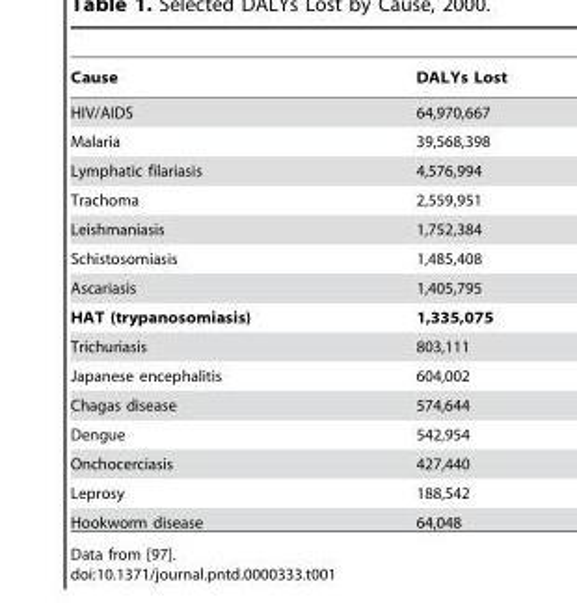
<table><thead><tr><td>Cause</td><td>DALYs Lost</td></tr></thead><tbody><tr><td>HIV/AIDS</td><td>64,970,667</td></tr><tr><td>Malaria</td><td>39,568,398</td></tr><tr><td>Lymphatic filariasis</td><td>4,576,994</td></tr><tr><td>Trachoma</td><td>2,559,951</td></tr><tr><td>Leishmaniasis</td><td>1,752,384</td></tr><tr><td>Schistosomiasis</td><td>1,485,408</td></tr><tr><td>Ascariasis</td><td>1,405,795</td></tr><tr><td>HAT (trypanosomiasis)</td><td>1,335,075</td></tr><tr><td>Trichuriasis</td><td>803,111</td></tr><tr><td>Japanese encephalitis</td><td>604,002</td></tr><tr><td>Chagas disease</td><td>574,644</td></tr><tr><td>Dengue</td><td>542,954</td></tr><tr><td>Onchocerciasis</td><td>427,440</td></tr><tr><td>Leprosy</td><td>188,542</td></tr><tr><td>Hookworm disease</td><td>64,048</td></tr></tbody></table>